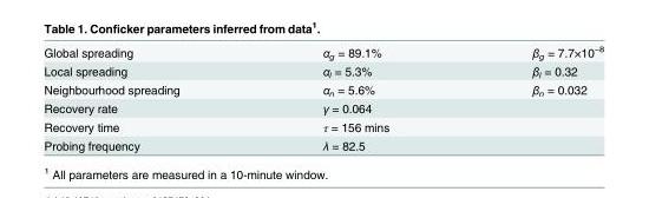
<table><tbody><tr><td>Global spreading</td><td>α<sub>g</sub> = 89.1%</td><td>β<sub>g</sub> = 7.7×10<sup>−8</sup></td></tr><tr><td>Local spreading</td><td>α<sub>l</sub> = 5.3%</td><td>β<sub>l</sub> = 0.32</td></tr><tr><td>Neighbourhood spreading</td><td>α<sub>n</sub> = 5.6%</td><td>β<sub>n</sub> = 0.032</td></tr><tr><td>Recovery rate</td><td>γ = 0.064</td><td></td></tr><tr><td>Recovery time</td><td>τ = 156 mins</td><td></td></tr><tr><td>Probing frequency</td><td>λ = 82.5</td><td></td></tr></tbody></table>